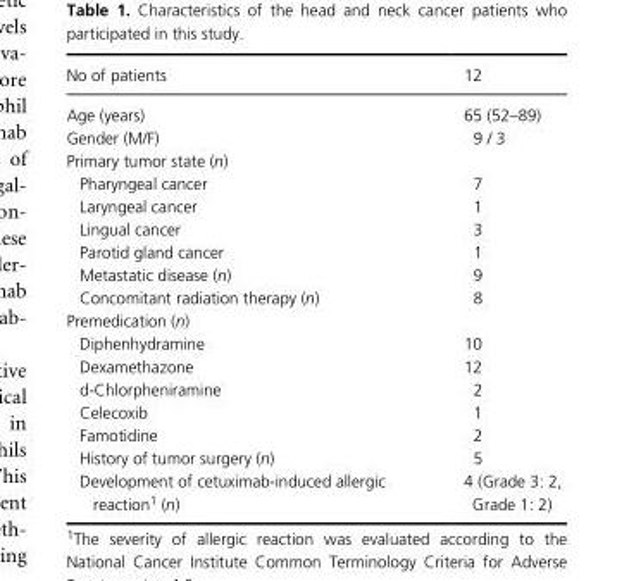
<table><thead><tr><td>No of patients</td><td>12</td></tr></thead><tbody><tr><td>Age (years)</td><td>65 (52–89)</td></tr><tr><td>Gender (M/F)</td><td>9 / 3</td></tr><tr><td colspan="2">Primary tumor state (n)</td></tr><tr><td>Pharyngeal cancer</td><td>7</td></tr><tr><td>Laryngeal cancer</td><td>1</td></tr><tr><td>Lingual cancer</td><td>3</td></tr><tr><td>Parotid gland cancer</td><td>1</td></tr><tr><td>Metastatic disease (n)</td><td>9</td></tr><tr><td>Concomitant radiation therapy (n)</td><td>8</td></tr><tr><td colspan="2">Premedication (n)</td></tr><tr><td>Diphenhydramine</td><td>10</td></tr><tr><td>Dexamethazone</td><td>12</td></tr><tr><td>d- Chlorpheniramine</td><td>2</td></tr><tr><td>Celecoxib</td><td>1</td></tr><tr><td>Famotidine</td><td>2</td></tr><tr><td>History of tumor surgery (n)</td><td>5</td></tr><tr><td>Development of cetuximab- induced allergic reaction1 (n)</td><td>4 (Grade 3: 2, Grade 1: 2)</td></tr></tbody></table>